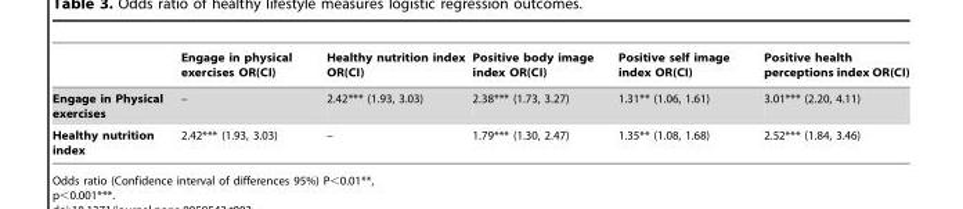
<table><thead><tr><td></td><td>Engage in physical exercises OR(CI)</td><td>Healthy nutrition index OR(CI)</td><td>Positive body image index OR(CI)</td><td>Positive self image index OR(CI)</td><td>Positive health perceptions index OR(CI)</td></tr></thead><tbody><tr><td>Engage in Physical exercises</td><td>–</td><td>2.42*** (1.93, 3.03)</td><td>2.38*** (1.73, 3.27)</td><td>1.31** (1.06, 1.61)</td><td>3.01*** (2.20, 4.11)</td></tr><tr><td>Healthy nutrition index</td><td>2.42*** (1.93, 3.03)</td><td>–</td><td>1.79*** (1.30, 2.47)</td><td>1.35** (1.08, 1.68)</td><td>2.52*** (1.84, 3.46)</td></tr></tbody></table>